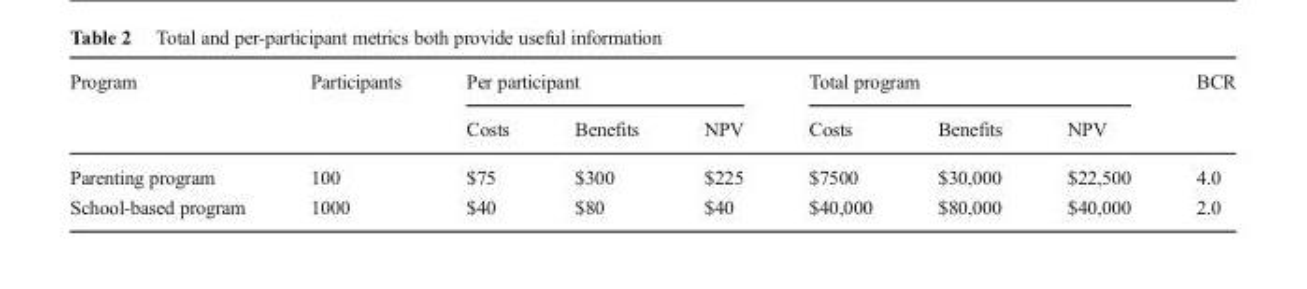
<table><thead><tr><td rowspan="2">Program</td><td rowspan="2">Participants</td><td colspan="3">Per participant</td><td colspan="3">Total program</td><td rowspan="2">BCR</td></tr><tr><td>Costs</td><td>Benefits</td><td>NPV</td><td>Costs</td><td>Benefits</td><td>NPV</td></tr></thead><tbody><tr><td>Parenting program</td><td>100</td><td>$75</td><td>$300</td><td>$225</td><td>$7500</td><td>$30,000</td><td>$22,500</td><td>4.0</td></tr><tr><td>School-based program</td><td>1000</td><td>$40</td><td>$80</td><td>$40</td><td>$40,000</td><td>$80,000</td><td>$40,000</td><td>2.0</td></tr></tbody></table>